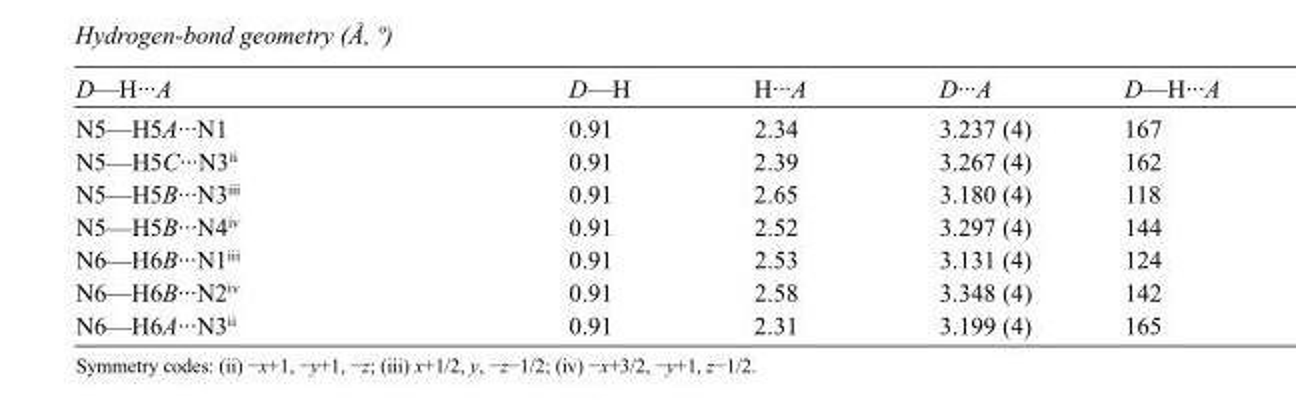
<table><tbody><tr><td>D—H···A</td><td>D—H</td><td>H···A</td><td>D···A</td><td>D—H···A</td></tr><tr><td>N5—H5A···N1</td><td>0.91</td><td>2.34</td><td>3.237 (4)</td><td>167</td></tr><tr><td>N5—H5C···N3<sup>ii</sup></td><td>0.91</td><td>2.39</td><td>3.267 (4)</td><td>162</td></tr><tr><td>N5—H5B···N3<sup>iii</sup></td><td>0.91</td><td>2.65</td><td>3.180 (4)</td><td>118</td></tr><tr><td>N5—H5B···N4<sup>iv</sup></td><td>0.91</td><td>2.52</td><td>3.297 (4)</td><td>144</td></tr><tr><td>N6—H6B···N1<sup>iii</sup></td><td>0.91</td><td>2.53</td><td>3.131 (4)</td><td>124</td></tr><tr><td>N6—H6B···N2<sup>iv</sup></td><td>0.91</td><td>2.58</td><td>3.348 (4)</td><td>142</td></tr><tr><td>N6—H6A···N3<sup>ii</sup></td><td>0.91</td><td>2.31</td><td>3.199 (4)</td><td>165</td></tr></tbody></table>